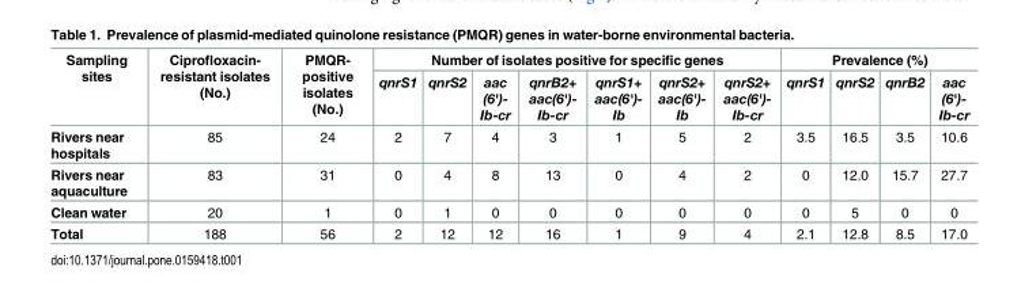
<table><thead><tr><td rowspan="2">Sampling sites</td><td rowspan="2">Ciprofloxacin- resistant isolates (No.)</td><td rowspan="2">PMQR- positive isolates (No.)</td><td colspan="7">Number of isolates positive for specific genes</td><td colspan="4">Prevalence (%)</td></tr><tr><td>qnrS1</td><td>qnrS2</td><td>aac (6&#x27;)- Ib-cr</td><td>qnrB2+ aac(6&#x27;)- Ib-cr</td><td>qnrS1+ aac(6&#x27;)- Ib</td><td>qnrS2+ aac(6&#x27;)- Ib</td><td>qnrS2+ aac(6&#x27;)- Ib-cr</td><td>qnrS1</td><td>qnrS2</td><td>qnrB2</td><td>aac (6&#x27;)- Ib-cr</td></tr></thead><tbody><tr><td>Rivers near hospitals</td><td>85</td><td>24</td><td>2</td><td>7</td><td>4</td><td>3</td><td>1</td><td>5</td><td>2</td><td>3.5</td><td>16.5</td><td>3.5</td><td>10.6</td></tr><tr><td>Rivers near aquaculture</td><td>83</td><td>31</td><td>0</td><td>4</td><td>8</td><td>13</td><td>0</td><td>4</td><td>2</td><td>0</td><td>12.0</td><td>15.7</td><td>27.7</td></tr><tr><td>Clean water</td><td>20</td><td>1</td><td>0</td><td>1</td><td>0</td><td>0</td><td>0</td><td>0</td><td>0</td><td>0</td><td>5</td><td>0</td><td>0</td></tr><tr><td>Total</td><td>188</td><td>56</td><td>2</td><td>12</td><td>12</td><td>16</td><td>1</td><td>9</td><td>4</td><td>2.1</td><td>12.8</td><td>8.5</td><td>17.0</td></tr></tbody></table>